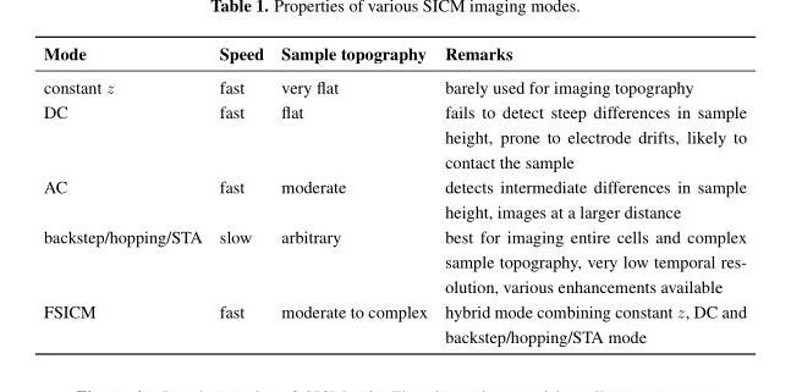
<table><thead><tr><td>Mode</td><td>Speed</td><td>Sample topography</td><td>Remarks</td></tr></thead><tbody><tr><td>constant z</td><td>fast</td><td>very flat</td><td>barely used for imaging topography</td></tr><tr><td>DC</td><td>fast</td><td>flat</td><td>fails to detect steep differences in sample height, prone to electrode drifts, likely to contact the sample</td></tr><tr><td>AC</td><td>fast</td><td>moderate</td><td>detects intermediate differences in sample height, images at a larger distance</td></tr><tr><td>backstep/hopping/STA</td><td>slow</td><td>arbitrary</td><td>best for imaging entire cells and complex sample topography, very low temporal res- olution, various enhancements available</td></tr><tr><td>FSICM</td><td>fast</td><td>moderate to complex</td><td>hybrid mode combining constant z, DC and backstep/hopping/STA mode</td></tr></tbody></table>